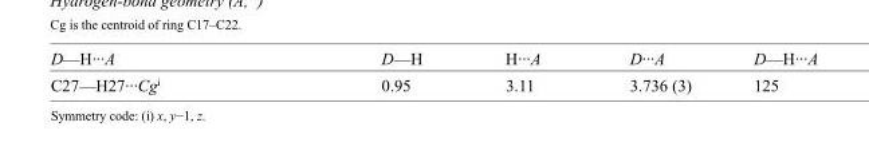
<table><tbody><tr><td>D—H···A</td><td>D—H</td><td>H···A</td><td>D···A</td><td>D—H···A</td></tr><tr><td>C27—H27···Cg<sup>i</sup></td><td>0.95</td><td>3.11</td><td>3.736 (3)</td><td>125</td></tr></tbody></table>